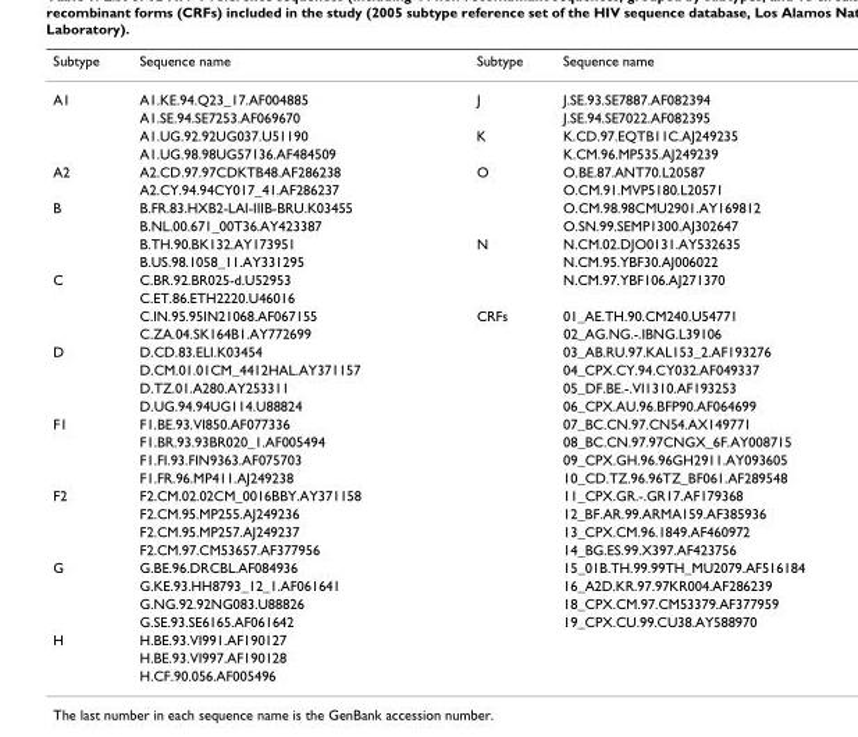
<table><thead><tr><td>Subtype</td><td>Sequence name</td><td>Subtype</td><td>Sequence name</td></tr></thead><tbody><tr><td rowspan="4">A1</td><td>A1.KE.94.Q23_17.AF004885</td><td>J</td><td>J.SE.93.SE7887.AF082394</td></tr><tr><td>A1.SE.94.SE7253.AF069670</td><td></td><td>J.SE.94.SE7022.AF082395</td></tr><tr><td>A1.UG.92.92UG037.U51190</td><td>K</td><td>K.CD.97.EQTB11C.AJ249235</td></tr><tr><td>A1.UG.98.98UG57136.AF484509</td><td></td><td>K.CM.96.MP535.AJ249239</td></tr><tr><td rowspan="2">A2</td><td>A2.CD.97.97CDKTB48.AF286238</td><td>O</td><td>O.BE.87.ANT70.L20587</td></tr><tr><td>A2.CY.94.94CY017_41.AF286237</td><td></td><td>O.CM.91.MVP5180.L20571</td></tr><tr><td rowspan="4">B</td><td>B.FR.83.HXB2-LAI-IIIB-BRU.K03455</td><td></td><td>O.CM.98.98CMU2901.AY169812</td></tr><tr><td>B.NL.00.671_00T36.AY423387</td><td></td><td>O.SN.99.SEMP1300.AJ302647</td></tr><tr><td>B.TH.90.BK132.AY173951</td><td>N</td><td>N.CM.02.DJO0131.AY532635</td></tr><tr><td>B.US.98.1058_11.AY331295</td><td></td><td>N.CM.95.YBF30.AJ006022</td></tr><tr><td rowspan="4">C</td><td>C.BR.92.BR025-d.U52953</td><td></td><td>N.CM.97.YBF106.AJ271370</td></tr><tr><td>C.ET.86.ETH2220.U46016</td><td></td><td></td></tr><tr><td>C.IN.95.95IN21068.AF067155</td><td>CRFs</td><td>01_AE.TH.90.CM240.U54771</td></tr><tr><td>C.ZA.04.SK164B1.AY772699</td><td></td><td>02_AG.NG.-.IBNG.L39106</td></tr><tr><td rowspan="4">D</td><td>D.CD.83.ELI.K03454</td><td></td><td>03_AB.RU.97.KAL153_2.AF193276</td></tr><tr><td>D.CM.01.01CM_4412HAL.AY371157</td><td></td><td>04_CPX.CY.94.CY032.AF049337</td></tr><tr><td>D.TZ.01.A280.AY253311</td><td></td><td>05_DF.BE.-.VI1310.AF193253</td></tr><tr><td>D.UG.94.94UG114.U88824</td><td></td><td>06_CPX.AU.96.BFP90.AF064699</td></tr><tr><td rowspan="4">F1</td><td>F1.BE.93.VI850.AF077336</td><td></td><td>07_BC.CN.97.CN54.AX149771</td></tr><tr><td>F1.BR.93.93BR020_1.AF005494</td><td></td><td>08_BC.CN.97.97CNGX_6F.AY008715</td></tr><tr><td>F1.FI.93.FIN9363.AF075703</td><td></td><td>09_CPX.GH.96.96GH2911.AY093605</td></tr><tr><td>F1.FR.96.MP411.AJ249238</td><td></td><td>10_CD.TZ.96.96TZ_BF061.AF289548</td></tr><tr><td rowspan="4">F2</td><td>F2.CM.02.02CM_0016BBY.AY371158</td><td></td><td>11_CPX.GR.-.GR17.AF179368</td></tr><tr><td>F2.CM.95.MP255.AJ249236</td><td></td><td>12_BF.AR.99.ARMA159.AF385936</td></tr><tr><td>F2.CM.95.MP257.AJ249237</td><td></td><td>13_CPX.CM.96.1849.AF460972</td></tr><tr><td>F2.CM.97.CM53657.AF377956</td><td></td><td>14_BG.ES.99.X397.AF423756</td></tr><tr><td rowspan="4">G</td><td>G.BE.96.DRCBL.AF084936</td><td></td><td>15_01B.TH.99.99TH_MU2079.AF516184</td></tr><tr><td>G.KE.93.HH8793_12_1.AF061641</td><td></td><td>16_A2D.KR.97.97KR004.AF286239</td></tr><tr><td>G.NG.92.92NG083.U88826</td><td></td><td>18_CPX.CM.97.CM53379.AF377959</td></tr><tr><td>G.SE.93.SE6165.AF061642</td><td></td><td>19_CPX.CU.99.CU38.AY588970</td></tr><tr><td rowspan="3">H</td><td>H.BE.93.VI991.AF190127</td><td></td><td></td></tr><tr><td>H.BE.93.VI997.AF190128</td><td></td><td></td></tr><tr><td>H.CF.90.056.AF005496</td><td></td><td></td></tr></tbody></table>